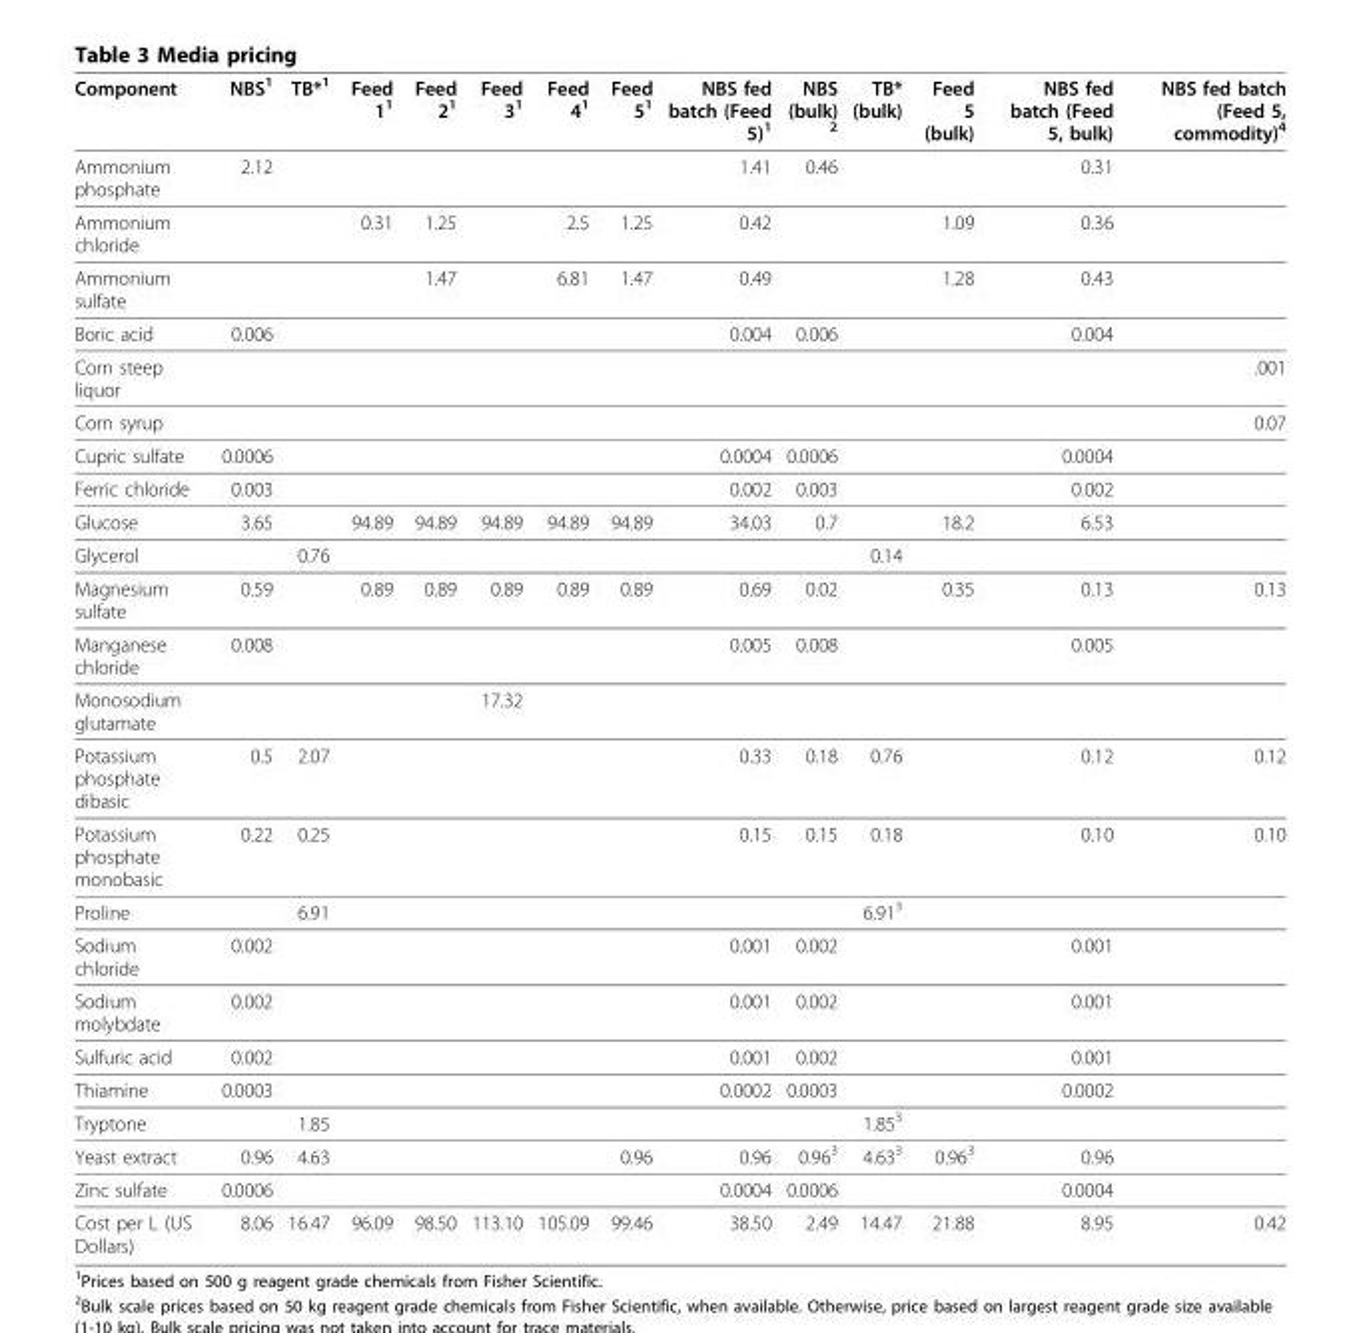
<table><thead><tr><td>Component</td><td>NBS<sup>1</sup></td><td>TB*<sup>1</sup></td><td>Feed 1<sup>1</sup></td><td>Feed 2<sup>1</sup></td><td>Feed 3<sup>1</sup></td><td>Feed 4<sup>1</sup></td><td>Feed 5<sup>1</sup></td><td>NBS fed batch (Feed 5)<sup>1</sup></td><td>NBS (bulk) <sup>2</sup></td><td>TB* (bulk)</td><td>Feed 5 (bulk)</td><td>NBS fed batch (Feed 5, bulk)</td><td>NBS fed batch (Feed 5, commodity)<sup>4</sup></td></tr></thead><tbody><tr><td>Ammonium phosphate</td><td>2.12</td><td></td><td></td><td></td><td></td><td></td><td></td><td>1.41</td><td>0.46</td><td></td><td></td><td>0.31</td><td></td></tr><tr><td>Ammonium chloride</td><td></td><td></td><td>0.31</td><td>1.25</td><td></td><td>2.5</td><td>1.25</td><td>0.42</td><td></td><td></td><td>1.09</td><td>0.36</td><td></td></tr><tr><td>Ammonium sulfate</td><td></td><td></td><td></td><td>1.47</td><td></td><td>6.81</td><td>1.47</td><td>0.49</td><td></td><td></td><td>1.28</td><td>0.43</td><td></td></tr><tr><td>Boric acid</td><td>0.006</td><td></td><td></td><td></td><td></td><td></td><td></td><td>0.004</td><td>0.006</td><td></td><td></td><td>0.004</td><td></td></tr><tr><td>Corn steep liquor</td><td></td><td></td><td></td><td></td><td></td><td></td><td></td><td></td><td></td><td></td><td></td><td></td><td>.001</td></tr><tr><td>Corn syrup</td><td></td><td></td><td></td><td></td><td></td><td></td><td></td><td></td><td></td><td></td><td></td><td></td><td>0.07</td></tr><tr><td>Cupric sulfate</td><td>0.0006</td><td></td><td></td><td></td><td></td><td></td><td></td><td>0.0004</td><td>0.0006</td><td></td><td></td><td>0.0004</td><td></td></tr><tr><td>Ferric chloride</td><td>0.003</td><td></td><td></td><td></td><td></td><td></td><td></td><td>0.002</td><td>0.003</td><td></td><td></td><td>0.002</td><td></td></tr><tr><td>Glucose</td><td>3.65</td><td></td><td>94.89</td><td>94.89</td><td>94.89</td><td>94.89</td><td>94.89</td><td>34.03</td><td>0.7</td><td></td><td>18.2</td><td>6.53</td><td></td></tr><tr><td>Glycerol</td><td></td><td>0.76</td><td></td><td></td><td></td><td></td><td></td><td></td><td></td><td>0.14</td><td></td><td></td><td></td></tr><tr><td>Magnesium sulfate</td><td>0.59</td><td></td><td>0.89</td><td>0.89</td><td>0.89</td><td>0.89</td><td>0.89</td><td>0.69</td><td>0.02</td><td></td><td>0.35</td><td>0.13</td><td>0.13</td></tr><tr><td>Manganese chloride</td><td>0.008</td><td></td><td></td><td></td><td></td><td></td><td></td><td>0.005</td><td>0.008</td><td></td><td></td><td>0.005</td><td></td></tr><tr><td>Monosodium glutamate</td><td></td><td></td><td></td><td></td><td>17.32</td><td></td><td></td><td></td><td></td><td></td><td></td><td></td><td></td></tr><tr><td>Potassium phosphate dibasic</td><td>0.5</td><td>2.07</td><td></td><td></td><td></td><td></td><td></td><td>0.33</td><td>0.18</td><td>0.76</td><td></td><td>0.12</td><td>0.12</td></tr><tr><td>Potassium phosphate monobasic</td><td>0.22</td><td>0.25</td><td></td><td></td><td></td><td></td><td></td><td>0.15</td><td>0.15</td><td>0.18</td><td></td><td>0.10</td><td>0.10</td></tr><tr><td>Proline</td><td></td><td>6.91</td><td></td><td></td><td></td><td></td><td></td><td></td><td></td><td>6.91<sup>3</sup></td><td></td><td></td><td></td></tr><tr><td>Sodium chloride</td><td>0.002</td><td></td><td></td><td></td><td></td><td></td><td></td><td>0.001</td><td>0.002</td><td></td><td></td><td>0.001</td><td></td></tr><tr><td>Sodium molybdate</td><td>0.002</td><td></td><td></td><td></td><td></td><td></td><td></td><td>0.001</td><td>0.002</td><td></td><td></td><td>0.001</td><td></td></tr><tr><td>Sulfuric acid</td><td>0.002</td><td></td><td></td><td></td><td></td><td></td><td></td><td>0.001</td><td>0.002</td><td></td><td></td><td>0.001</td><td></td></tr><tr><td>Thiamine</td><td>0.0003</td><td></td><td></td><td></td><td></td><td></td><td></td><td>0.0002</td><td>0.0003</td><td></td><td></td><td>0.0002</td><td></td></tr><tr><td>Tryptone</td><td></td><td>1.85</td><td></td><td></td><td></td><td></td><td></td><td></td><td></td><td>1.85<sup>3</sup></td><td></td><td></td><td></td></tr><tr><td>Yeast extract</td><td>0.96</td><td>4.63</td><td></td><td></td><td></td><td></td><td>0.96</td><td>0.96</td><td>0.96<sup>3</sup></td><td>4.63<sup>3</sup></td><td>0.96<sup>3</sup></td><td>0.96</td><td></td></tr><tr><td>Zinc sulfate</td><td>0.0006</td><td></td><td></td><td></td><td></td><td></td><td></td><td>0.0004</td><td>0.0006</td><td></td><td></td><td>0.0004</td><td></td></tr><tr><td>Cost per L (US Dollars)</td><td>8.06</td><td>16.47</td><td>96.09</td><td>98.50</td><td>113.10</td><td>105.09</td><td>99.46</td><td>38.50</td><td>2.49</td><td>14.47</td><td>21.88</td><td>8.95</td><td>0.42</td></tr></tbody></table>